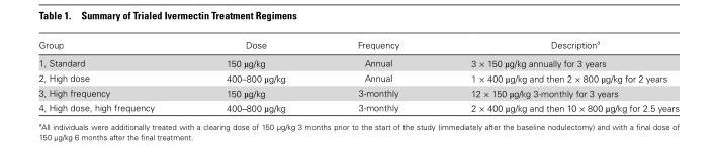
<table><thead><tr><td>Group</td><td>Dose</td><td>Frequency</td><td>Description<sup>a</sup></td></tr></thead><tbody><tr><td>1, Standard</td><td>150 µg/kg</td><td>Annual</td><td>3 × 150 µg/kg annually for 3 years</td></tr><tr><td>2, High dose</td><td>400–800 µg/kg</td><td>Annual</td><td>1 × 400 µg/kg and then 2 × 800 µg/kg for 2 years</td></tr><tr><td>3, High frequency</td><td>150 µg/kg</td><td>3-monthly</td><td>12 × 150 µg/kg 3-monthly for 3 years</td></tr><tr><td>4, High dose, high frequency</td><td>400–800 µg/kg</td><td>3-monthly</td><td>2 × 400 µg/kg and then 10 × 800 µg/kg for 2.5 years</td></tr></tbody></table>